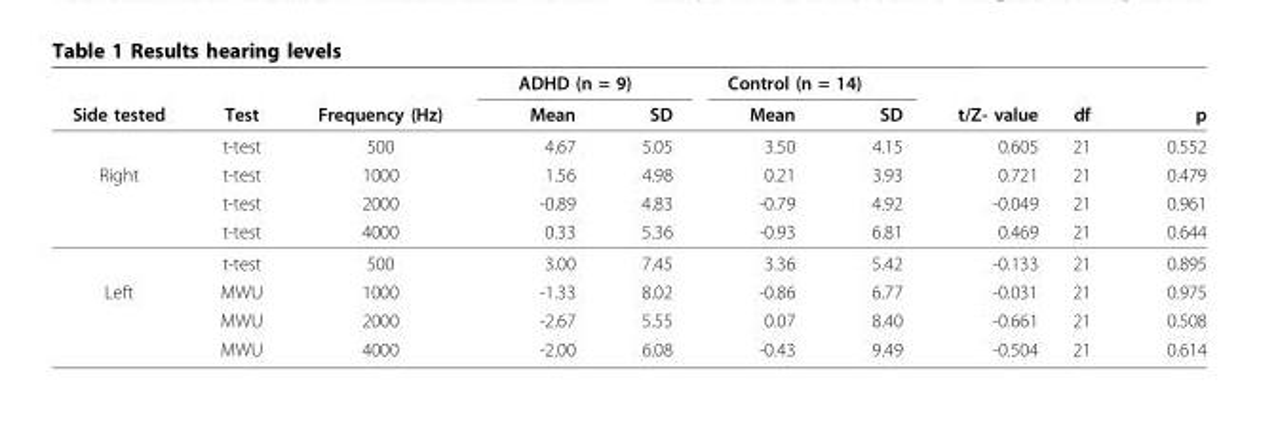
<table><thead><tr><td rowspan="2">Side tested</td><td rowspan="2">Test</td><td rowspan="2">Frequency (Hz)</td><td colspan="2">ADHD (n = 9)</td><td colspan="2">Control (n = 14)</td><td rowspan="2">t/Z- value</td><td rowspan="2">df</td><td rowspan="2">p</td></tr><tr><td>Mean</td><td>SD</td><td>Mean</td><td>SD</td></tr></thead><tbody><tr><td></td><td>t-test</td><td>500</td><td>4.67</td><td>5.05</td><td>3.50</td><td>4.15</td><td>0.605</td><td>21</td><td>0.552</td></tr><tr><td rowspan="4">Right</td><td>t-test</td><td>1000</td><td>1.56</td><td>4.98</td><td>0.21</td><td>3.93</td><td>0.721</td><td>21</td><td>0.479</td></tr><tr><td>t-test</td><td>2000</td><td>-0.89</td><td>4.83</td><td>-0.79</td><td>4.92</td><td>-0.049</td><td>21</td><td>0.961</td></tr><tr><td>t-test</td><td>4000</td><td>0.33</td><td>5.36</td><td>-0.93</td><td>6.81</td><td>0.469</td><td>21</td><td>0.644</td></tr><tr><td>t-test</td><td>500</td><td>3.00</td><td>7.45</td><td>3.36</td><td>5.42</td><td>-0.133</td><td>21</td><td>0.895</td></tr><tr><td rowspan="3">Left</td><td>MWU</td><td>1000</td><td>-1.33</td><td>8.02</td><td>-0.86</td><td>6.77</td><td>-0.031</td><td>21</td><td>0.975</td></tr><tr><td>MWU</td><td>2000</td><td>-2.67</td><td>5.55</td><td>0.07</td><td>8.40</td><td>-0.661</td><td>21</td><td>0.508</td></tr><tr><td>MWU</td><td>4000</td><td>-2.00</td><td>6.08</td><td>-0.43</td><td>9.49</td><td>-0.504</td><td>21</td><td>0.614</td></tr></tbody></table>